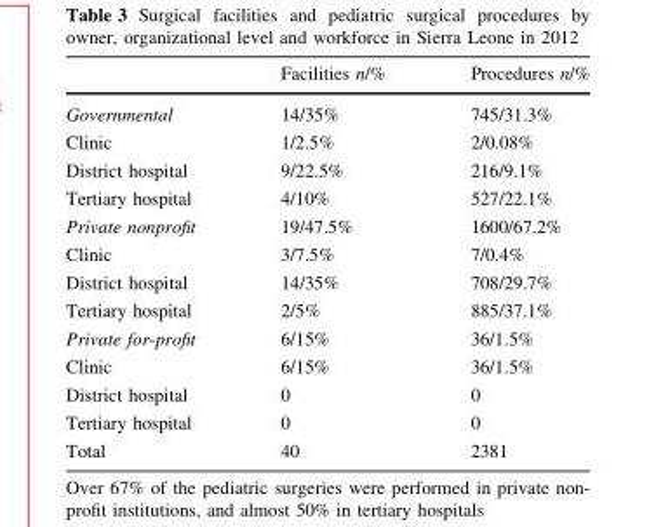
<table><thead><tr><td></td><td>Facilities n/%</td><td>Procedures n/%</td></tr></thead><tbody><tr><td>Governmental</td><td>14/35%</td><td>745/31.3%</td></tr><tr><td>Clinic</td><td>1/2.5%</td><td>2/0.08%</td></tr><tr><td>District hospital</td><td>9/22.5%</td><td>216/9.1%</td></tr><tr><td>Tertiary hospital</td><td>4/10%</td><td>527/22.1%</td></tr><tr><td>Private nonprofit</td><td>19/47.5%</td><td>1600/67.2%</td></tr><tr><td>Clinic</td><td>3/7.5%</td><td>7/0.4%</td></tr><tr><td>District hospital</td><td>14/35%</td><td>708/29.7%</td></tr><tr><td>Tertiary hospital</td><td>2/5%</td><td>885/37.1%</td></tr><tr><td>Private for-profit</td><td>6/15%</td><td>36/1.5%</td></tr><tr><td>Clinic</td><td>6/15%</td><td>36/1.5%</td></tr><tr><td>District hospital</td><td>0</td><td>0</td></tr><tr><td>Tertiary hospital</td><td>0</td><td>0</td></tr><tr><td>Total</td><td>40</td><td>2381</td></tr></tbody></table>